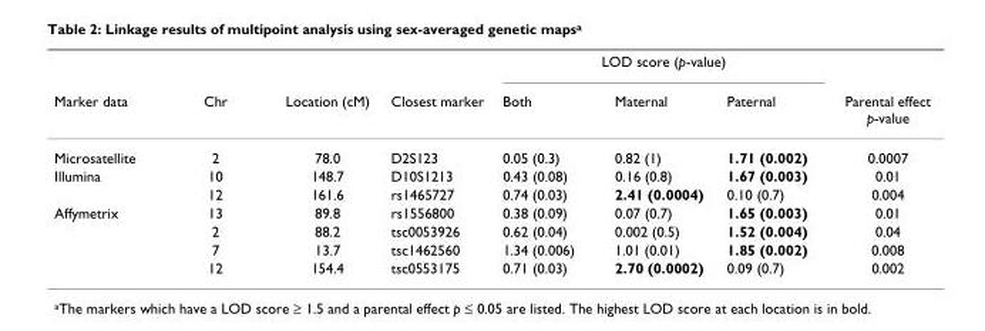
<table><thead><tr><td rowspan="2">Marker data</td><td rowspan="2">Chr</td><td rowspan="2">Location (cM)</td><td rowspan="2">Closest marker</td><td colspan="3">LOD score (p-value)</td><td rowspan="2">Parental effect p-value</td></tr><tr><td>Both</td><td>Maternal</td><td>Paternal</td></tr></thead><tbody><tr><td>Microsatellite</td><td>2</td><td>78.0</td><td>D2S123</td><td>0.05 (0.3)</td><td>0.82 (1)</td><td>1.71 (0.002)</td><td>0.0007</td></tr><tr><td rowspan="2">Illumina</td><td>10</td><td>148.7</td><td>D10S1213</td><td>0.43 (0.08)</td><td>0.16 (0.8)</td><td>1.67 (0.003)</td><td>0.01</td></tr><tr><td>12</td><td>161.6</td><td>rs1465727</td><td>0.74 (0.03)</td><td>2.41 (0.0004)</td><td>0.10 (0.7)</td><td>0.004</td></tr><tr><td rowspan="4">Affymetrix</td><td>13</td><td>89.8</td><td>rs1556800</td><td>0.38 (0.09)</td><td>0.07 (0.7)</td><td>1.65 (0.003)</td><td>0.01</td></tr><tr><td>2</td><td>88.2</td><td>tsc0053926</td><td>0.62 (0.04)</td><td>0.002 (0.5)</td><td>1.52 (0.004)</td><td>0.04</td></tr><tr><td>7</td><td>13.7</td><td>tsc1462560</td><td>1.34 (0.006)</td><td>1.01 (0.01)</td><td>1.85 (0.002)</td><td>0.008</td></tr><tr><td>12</td><td>154.4</td><td>tsc0553175</td><td>0.71 (0.03)</td><td>2.70 (0.0002)</td><td>0.09 (0.7)</td><td>0.002</td></tr></tbody></table>